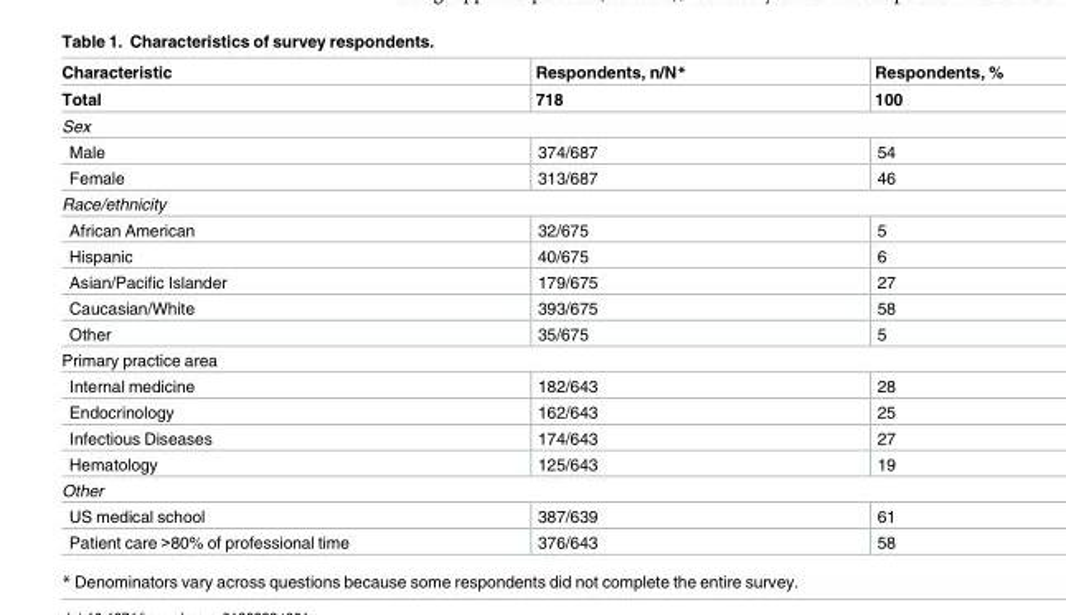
<table><thead><tr><td rowspan="2">Characteristic Total</td><td rowspan="2">Respondents, n/N* 718</td><td rowspan="2">Respondents, % 100</td></tr><tr></tr></thead><tbody><tr><td colspan="3">Sex</td></tr><tr><td>Male</td><td>374/687</td><td>54</td></tr><tr><td>Female</td><td>313/687</td><td>46</td></tr><tr><td colspan="3">Race/ethnicity</td></tr><tr><td>African American</td><td>32/675</td><td>5</td></tr><tr><td>Hispanic</td><td>40/675</td><td>6</td></tr><tr><td>Asian/Pacific Islander</td><td>179/675</td><td>27</td></tr><tr><td>Caucasian/White</td><td>393/675</td><td>58</td></tr><tr><td>Other</td><td>35/675</td><td>5</td></tr><tr><td colspan="3">Primary practice area</td></tr><tr><td>Internal medicine</td><td>182/643</td><td>28</td></tr><tr><td>Endocrinology</td><td>162/643</td><td>25</td></tr><tr><td>Infectious Diseases</td><td>174/643</td><td>27</td></tr><tr><td>Hematology</td><td>125/643</td><td>19</td></tr><tr><td colspan="3">Other</td></tr><tr><td>US medical school</td><td>387/639</td><td>61</td></tr><tr><td>Patient care &gt;80% of professional time</td><td>376/643</td><td>58</td></tr></tbody></table>